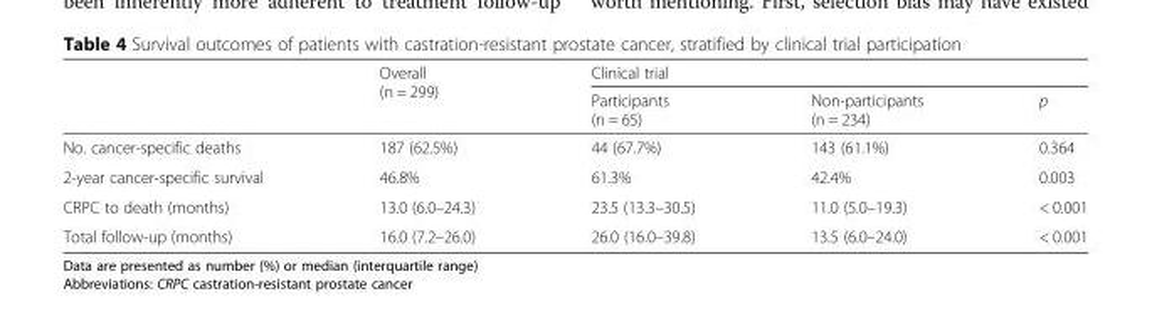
<table><thead><tr><td rowspan="2"></td><td rowspan="2">Overall (n = 299)</td><td colspan="3">Clinical trial</td></tr><tr><td>Participants (n = 65)</td><td>Non-participants (n = 234)</td><td>p</td></tr></thead><tbody><tr><td>No. cancer-specific deaths</td><td>187 (62.5%)</td><td>44 (67.7%)</td><td>143 (61.1%)</td><td>0.364</td></tr><tr><td>2-year cancer-specific survival</td><td>46.8%</td><td>61.3%</td><td>42.4%</td><td>0.003</td></tr><tr><td>CRPC to death (months)</td><td>13.0 (6.0–24.3)</td><td>23.5 (13.3–30.5)</td><td>11.0 (5.0–19.3)</td><td>&lt; 0.001</td></tr><tr><td>Total follow-up (months)</td><td>16.0 (7.2–26.0)</td><td>26.0 (16.0–39.8)</td><td>13.5 (6.0–24.0)</td><td>&lt; 0.001</td></tr></tbody></table>